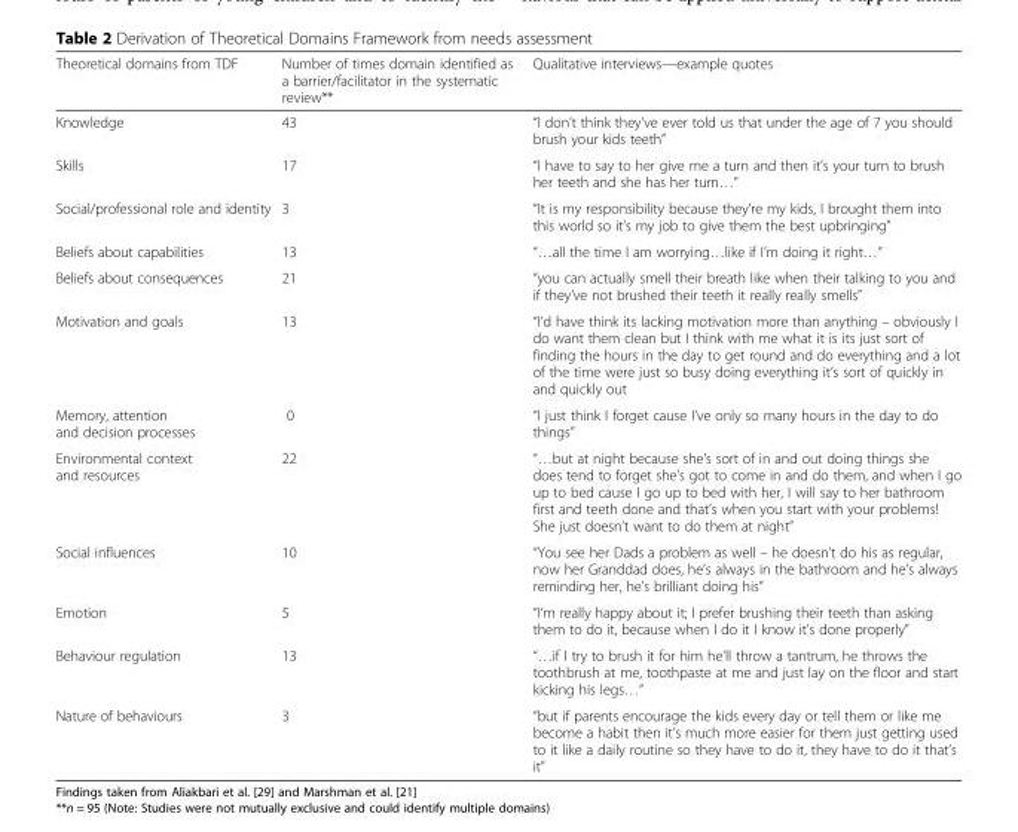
<table><thead><tr><td>Theoretical domains from TDF</td><td>Number of times domain identified as a barrier/facilitator in the systematic review**</td><td>Qualitative interviews—example quotes</td></tr></thead><tbody><tr><td>Knowledge</td><td>43</td><td>“I don’t think they’ve ever told us that under the age of 7 you should brush your kids teeth”</td></tr><tr><td>Skills</td><td>17</td><td>“I have to say to her give me a turn and then it’s your turn to brush her teeth and she has her turn…”</td></tr><tr><td>Social/professional role and identity</td><td>3</td><td>“It is my responsibility because they’re my kids, I brought them into this world so it’s my job to give them the best upbringing”</td></tr><tr><td>Beliefs about capabilities</td><td>13</td><td>“…all the time I am worrying…like if I’m doing it right…”</td></tr><tr><td>Beliefs about consequences</td><td>21</td><td>“you can actually smell their breath like when their talking to you and if they’ve not brushed their teeth it really really smells”</td></tr><tr><td>Motivation and goals</td><td>13</td><td>“I’d have think its lacking motivation more than anything – obviously I do want them clean but I think with me what it is its just sort of finding the hours in the day to get round and do everything and a lot of the time were just so busy doing everything it’s sort of quickly in and quickly out</td></tr><tr><td>Memory, attention and decision processes</td><td>0</td><td>“I just think I forget cause I’ve only so many hours in the day to do things”</td></tr><tr><td>Environmental context and resources</td><td>22</td><td>“…but at night because she’s sort of in and out doing things she does tend to forget she’s got to come in and do them, and when I go up to bed cause I go up to bed with her, I will say to her bathroom first and teeth done and that’s when you start with your problems! She just doesn’t want to do them at night”</td></tr><tr><td>Social influences</td><td>10</td><td>“You see her Dads a problem as well – he doesn’t do his as regular, now her Granddad does, he’s always in the bathroom and he’s always reminding her, he’s brilliant doing his”</td></tr><tr><td>Emotion</td><td>5</td><td>“I’m really happy about it; I prefer brushing their teeth than asking them to do it, because when I do it I know it’s done properly”</td></tr><tr><td>Behaviour regulation</td><td>13</td><td>“…if I try to brush it for him he’ll throw a tantrum, he throws the toothbrush at me, toothpaste at me and just lay on the floor and start kicking his legs…”</td></tr><tr><td>Nature of behaviours</td><td>3</td><td>“but if parents encourage the kids every day or tell them or like me become a habit then it’s much more easier for them just getting used to it like a daily routine so they have to do it, they have to do it that’s it”</td></tr></tbody></table>